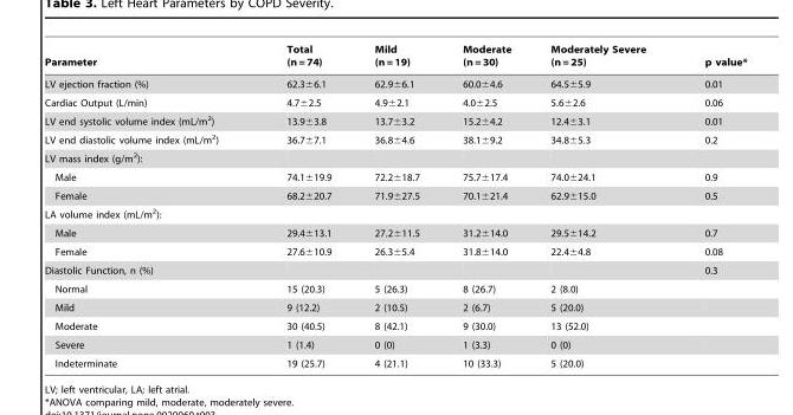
<table><thead><tr><td>Parameter</td><td>Total (n = 74)</td><td>Mild (n = 19)</td><td>Moderate (n = 30)</td><td>Moderately Severe (n = 25)</td><td>p value*</td></tr></thead><tbody><tr><td>LV ejection fraction (%)</td><td>62.3±6.1</td><td>62.9±6.1</td><td>60.0±4.6</td><td>64.5±5.9</td><td>0.01</td></tr><tr><td>Cardiac Output (L/min)</td><td>4.7±2.5</td><td>4.9±2.1</td><td>4.0±2.5</td><td>5.6±2.6</td><td>0.06</td></tr><tr><td>LV end systolic volume index (mL/m<sup>2</sup>)</td><td>13.9±3.8</td><td>13.7±3.2</td><td>15.2±4.2</td><td>12.4±3.1</td><td>0.01</td></tr><tr><td>LV end diastolic volume index (mL/m<sup>2</sup>)</td><td>36.7±7.1</td><td>36.8±4.6</td><td>38.1±9.2</td><td>34.8±5.3</td><td>0.2</td></tr><tr><td colspan="6">LV mass index (g/m<sup>2</sup>):</td></tr><tr><td>Male</td><td>74.1±19.9</td><td>72.2±18.7</td><td>75.7±17.4</td><td>74.0±24.1</td><td>0.9</td></tr><tr><td>Female</td><td>68.2±20.7</td><td>71.9±27.5</td><td>70.1±21.4</td><td>62.9±15.0</td><td>0.5</td></tr><tr><td colspan="6">LA volume index (mL/m<sup>2</sup>):</td></tr><tr><td>Male</td><td>29.4±13.1</td><td>27.2±11.5</td><td>31.2±14.0</td><td>29.5±14.2</td><td>0.7</td></tr><tr><td>Female</td><td>27.6±10.9</td><td>26.3±5.4</td><td>31.8±14.0</td><td>22.4±4.8</td><td>0.08</td></tr><tr><td>Diastolic Function, n (%)</td><td></td><td></td><td></td><td></td><td>0.3</td></tr><tr><td>Normal</td><td>15 (20.3)</td><td>5 (26.3)</td><td>8 (26.7)</td><td>2 (8.0)</td><td></td></tr><tr><td>Mild</td><td>9 (12.2)</td><td>2 (10.5)</td><td>2 (6.7)</td><td>5 (20.0)</td><td></td></tr><tr><td>Moderate</td><td>30 (40.5)</td><td>8 (42.1)</td><td>9 (30.0)</td><td>13 (52.0)</td><td></td></tr><tr><td>Severe</td><td>1 (1.4)</td><td>0 (0)</td><td>1 (3.3)</td><td>0 (0)</td><td></td></tr><tr><td>Indeterminate</td><td>19 (25.7)</td><td>4 (21.1)</td><td>10 (33.3)</td><td>5 (20.0)</td><td></td></tr></tbody></table>